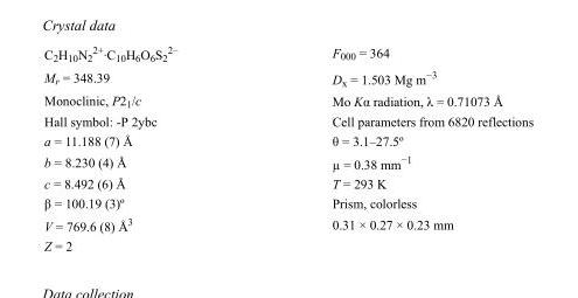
<table><tbody><tr><td>C<sub>2</sub>H<sub>10</sub>N<sub>2</sub> <sup>2+</sup>·C<sub>10</sub>H<sub>6</sub>O<sub>6</sub>S<sub>2</sub> <sup>2–</sup></td><td>F000 = 364</td></tr><tr><td>M<sub>r</sub> = 348.39</td><td>D<sub>x</sub> = 1.503 Mg m<sup>−3</sup></td></tr><tr><td>Monoclinic, P2<sub>1</sub>/c</td><td>Mo Kα radiation, λ = 0.71073 Å</td></tr><tr><td>Hall symbol: -P 2ybc</td><td>Cell parameters from 6820 reflections</td></tr><tr><td>a = 11.188 (7) Å</td><td>θ = 3.1–27.5º</td></tr><tr><td>b = 8.230 (4) Å</td><td>µ = 0.38 mm<sup>−1</sup></td></tr><tr><td>c = 8.492 (6) Å</td><td>T = 293 K</td></tr><tr><td>β = 100.19 (3)º</td><td>Prism, colorless</td></tr><tr><td>V = 769.6 (8) Å<sup>3</sup></td><td>0.31 × 0.27 × 0.23 mm</td></tr><tr><td>Z = 2</td><td></td></tr></tbody></table>